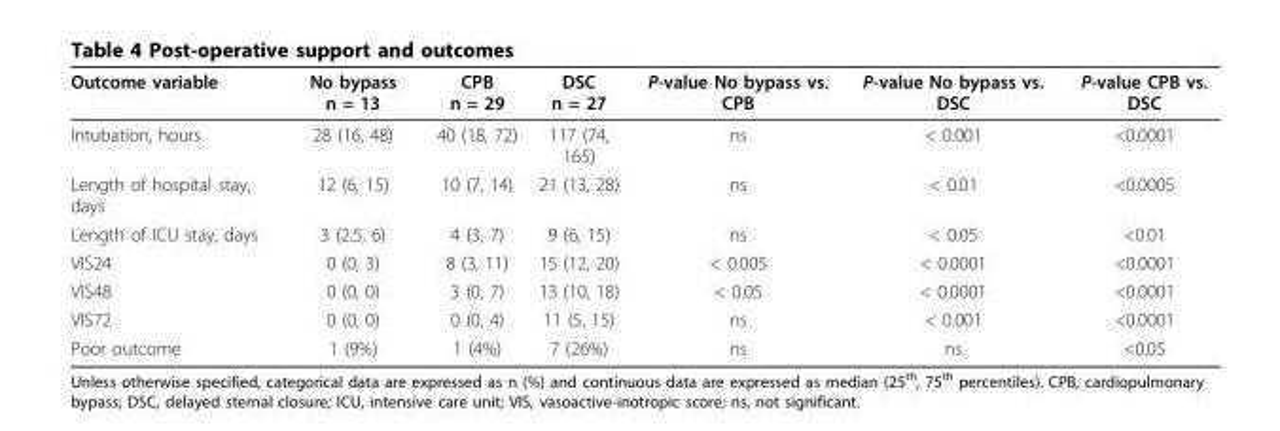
<table><thead><tr><td>Outcome variable</td><td>No bypass n = 13</td><td>CPB n = 29</td><td>DSC n = 27</td><td>P-value No bypass vs. CPB</td><td>P-value No bypass vs. DSC</td><td>P-value CPB vs. DSC</td></tr></thead><tbody><tr><td>Intubation, hours</td><td>28 (16, 48)</td><td>40 (18, 72)</td><td>117 (74, 165)</td><td>ns</td><td>&lt; 0.001</td><td>&lt;0.0001</td></tr><tr><td>Length of hospital stay, days</td><td>12 (6, 15)</td><td>10 (7, 14)</td><td>21 (13, 28)</td><td>ns</td><td>&lt; 0.01</td><td>&lt;0.0005</td></tr><tr><td>Length of ICU stay, days</td><td>3 (2.5, 6)</td><td>4 (3, 7)</td><td>9 (6, 15)</td><td>ns</td><td>&lt; 0.05</td><td>&lt;0.01</td></tr><tr><td>VIS24</td><td>0 (0, 3)</td><td>8 (3, 11)</td><td>15 (12, 20)</td><td>&lt; 0.005</td><td>&lt; 0.0001</td><td>&lt;0.0001</td></tr><tr><td>VIS48</td><td>0 (0, 0)</td><td>3 (0, 7)</td><td>13 (10, 18)</td><td>&lt; 0.05</td><td>&lt; 0.0001</td><td>&lt;0.0001</td></tr><tr><td>VIS72</td><td>0 (0, 0)</td><td>0 (0, 4)</td><td>11 (5, 15)</td><td>ns</td><td>&lt; 0.001</td><td>&lt;0.0001</td></tr><tr><td>Poor outcome</td><td>1 (9%)</td><td>1 (4%)</td><td>7 (26%)</td><td>ns</td><td>ns</td><td>&lt;0.05</td></tr></tbody></table>